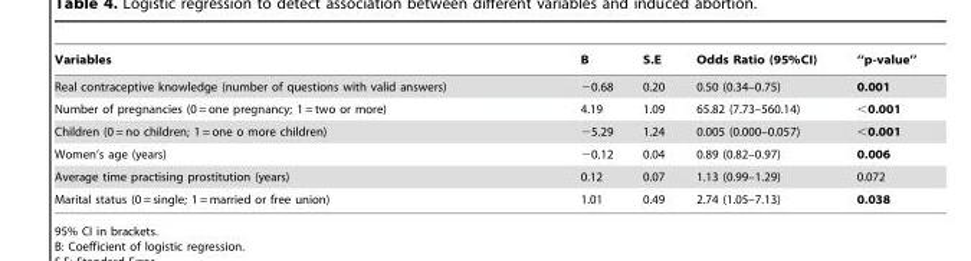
<table><thead><tr><td>Variables</td><td>B</td><td>S.E</td><td>Odds Ratio (95%CI)</td><td>‘‘p-value’’</td></tr></thead><tbody><tr><td>Real contraceptive knowledge (number of questions with valid answers)</td><td>−0.68</td><td>0.20</td><td>0.50 (0.34–0.75)</td><td>0.001</td></tr><tr><td>Number of pregnancies (0 = one pregnancy; 1 = two or more)</td><td>4.19</td><td>1.09</td><td>65.82 (7.73–560.14)</td><td>&lt;0.001</td></tr><tr><td>Children (0 = no children; 1 = one o more children)</td><td>−5.29</td><td>1.24</td><td>0.005 (0.000–0.057)</td><td>&lt;0.001</td></tr><tr><td>Women’s age (years)</td><td>−0.12</td><td>0.04</td><td>0.89 (0.82–0.97)</td><td>0.006</td></tr><tr><td>Average time practising prostitution (years)</td><td>0.12</td><td>0.07</td><td>1.13 (0.99–1.29)</td><td>0.072</td></tr><tr><td>Marital status (0 = single; 1 = married or free union)</td><td>1.01</td><td>0.49</td><td>2.74 (1.05–7.13)</td><td>0.038</td></tr></tbody></table>